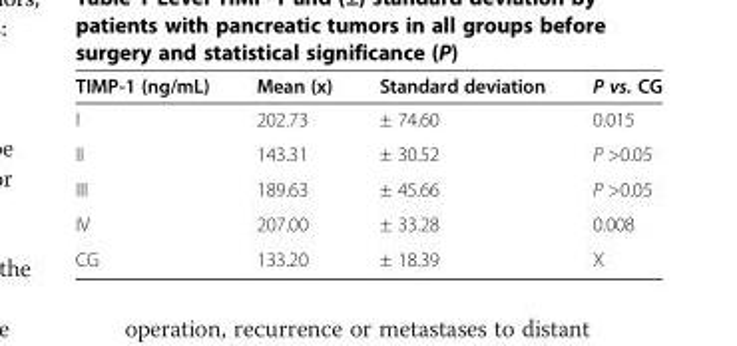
<table><thead><tr><td>TIMP-1 (ng/mL)</td><td>Mean (x)</td><td>Standard deviation</td><td>P vs. CG</td></tr></thead><tbody><tr><td>I</td><td>202.73</td><td>± 74.60</td><td>0.015</td></tr><tr><td>II</td><td>143.31</td><td>± 30.52</td><td>P &gt;0.05</td></tr><tr><td>III</td><td>189.63</td><td>± 45.66</td><td>P &gt;0.05</td></tr><tr><td>IV</td><td>207.00</td><td>± 33.28</td><td>0.008</td></tr><tr><td>CG</td><td>133.20</td><td>± 18.39</td><td>X</td></tr></tbody></table>